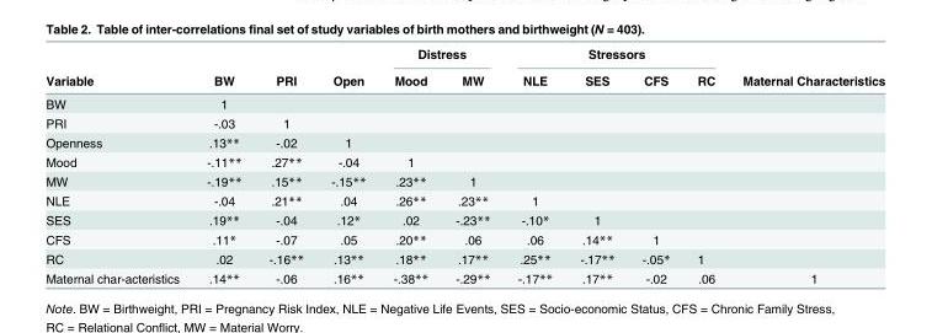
<table><thead><tr><td rowspan="2">Variable</td><td rowspan="2">BW</td><td rowspan="2">PRI</td><td rowspan="2">Open</td><td colspan="2">Distress</td><td colspan="4">Stressors</td><td rowspan="2">Maternal Characteristics</td></tr><tr><td>Mood</td><td>MW</td><td>NLE</td><td>SES</td><td>CFS</td><td>RC</td></tr></thead><tbody><tr><td>BW</td><td>1</td><td></td><td></td><td></td><td></td><td></td><td></td><td></td><td></td><td></td></tr><tr><td>PRI</td><td>-.03</td><td>1</td><td></td><td></td><td></td><td></td><td></td><td></td><td></td><td></td></tr><tr><td>Openness</td><td>.13**</td><td>-.02</td><td>1</td><td></td><td></td><td></td><td></td><td></td><td></td><td></td></tr><tr><td>Mood</td><td>-.11**</td><td>.27**</td><td>-.04</td><td>1</td><td></td><td></td><td></td><td></td><td></td><td></td></tr><tr><td>MW</td><td>-.19**</td><td>.15**</td><td>-.15**</td><td>.23**</td><td>1</td><td></td><td></td><td></td><td></td><td></td></tr><tr><td>NLE</td><td>-.04</td><td>.21**</td><td>.04</td><td>.26**</td><td>.23**</td><td>1</td><td></td><td></td><td></td><td></td></tr><tr><td>SES</td><td>.19**</td><td>-.04</td><td>.12*</td><td>.02</td><td>-.23**</td><td>-.10*</td><td>1</td><td></td><td></td><td></td></tr><tr><td>CFS</td><td>.11*</td><td>-.07</td><td>.05</td><td>.20**</td><td>.06</td><td>.06</td><td>.14**</td><td>1</td><td></td><td></td></tr><tr><td>RC</td><td>.02</td><td>-.16**</td><td>.13**</td><td>.18**</td><td>.17**</td><td>.25**</td><td>-.17**</td><td>-.05*</td><td>1</td><td></td></tr><tr><td>Maternal char-acteristics</td><td>.14**</td><td>-.06</td><td>.16**</td><td>-.38**</td><td>-.29**</td><td>-.17**</td><td>.17**</td><td>-.02</td><td>.06</td><td>1</td></tr></tbody></table>